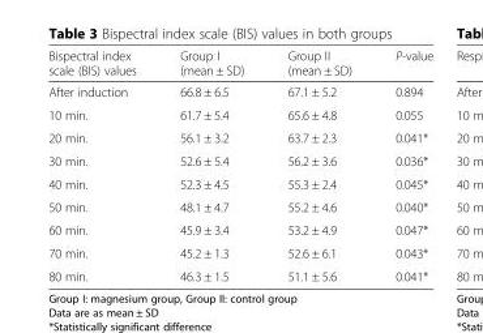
<table><thead><tr><td>Bispectral index scale (BIS) values</td><td>Group I (mean ± SD)</td><td>Group II (mean ± SD)</td><td>P-value</td></tr></thead><tbody><tr><td>After induction</td><td>66.8 ± 6.5</td><td>67.1 ± 5.2</td><td>0.894</td></tr><tr><td>10 min.</td><td>61.7 ± 5.4</td><td>65.6 ± 4.8</td><td>0.055</td></tr><tr><td>20 min.</td><td>56.1 ± 3.2</td><td>63.7 ± 2.3</td><td>0.041*</td></tr><tr><td>30 min.</td><td>52.6 ± 5.4</td><td>56.2 ± 3.6</td><td>0.036*</td></tr><tr><td>40 min.</td><td>52.3 ± 4.5</td><td>55.3 ± 2.4</td><td>0.045*</td></tr><tr><td>50 min.</td><td>48.1 ± 4.7</td><td>55.2 ± 4.6</td><td>0.040*</td></tr><tr><td>60 min.</td><td>45.9 ± 3.4</td><td>53.2 ± 4.9</td><td>0.047*</td></tr><tr><td>70 min.</td><td>45.2 ± 1.3</td><td>52.6 ± 6.1</td><td>0.043*</td></tr><tr><td>80 min.</td><td>46.3 ± 1.5</td><td>51.1 ± 5.6</td><td>0.041*</td></tr></tbody></table>